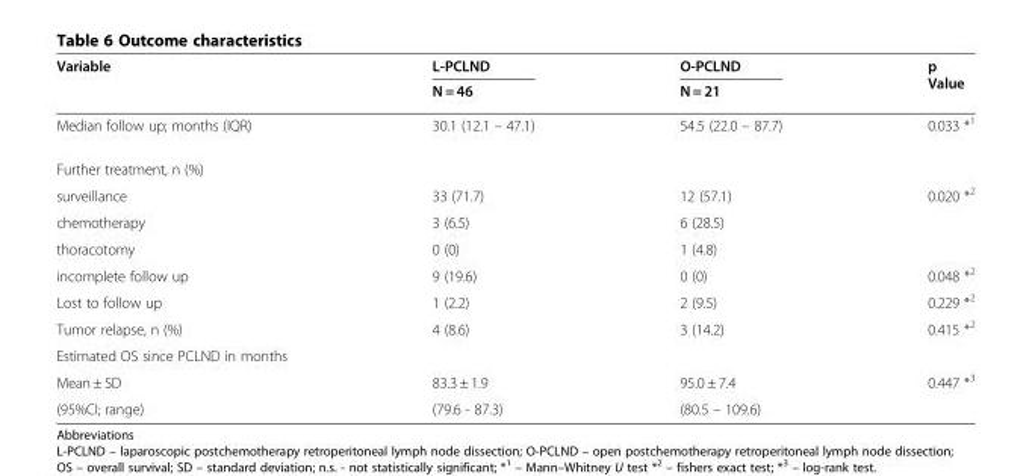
<table><thead><tr><td rowspan="2">Variable</td><td rowspan="2">L-PCLND N = 46</td><td rowspan="2">O-PCLND N = 21</td><td rowspan="2">p Value</td></tr><tr></tr></thead><tbody><tr><td>Median follow up; months (IQR)</td><td>30.1 (12.1 – 47.1)</td><td>54.5 (22.0 – 87.7)</td><td>0.033 *<sup>1</sup></td></tr><tr><td colspan="4">Further treatment, n (%)</td></tr><tr><td>surveillance</td><td>33 (71.7)</td><td>12 (57.1)</td><td>0.020 *<sup>2</sup></td></tr><tr><td>chemotherapy</td><td>3 (6.5)</td><td colspan="2">6 (28.5)</td></tr><tr><td>thoracotomy</td><td>0 (0)</td><td colspan="2">1 (4.8)</td></tr><tr><td>incomplete follow up</td><td>9 (19.6)</td><td>0 (0)</td><td>0.048 *<sup>2</sup></td></tr><tr><td>Lost to follow up</td><td>1 (2.2)</td><td>2 (9.5)</td><td>0.229 *<sup>2</sup></td></tr><tr><td>Tumor relapse, n (%)</td><td>4 (8.6)</td><td>3 (14.2)</td><td>0.415 *<sup>2</sup></td></tr><tr><td colspan="4">Estimated OS since PCLND in months</td></tr><tr><td>Mean ± SD</td><td>83.3 ± 1.9</td><td>95.0 ± 7.4</td><td>0.447 *<sup>3</sup></td></tr><tr><td>(95%CI; range)</td><td>(79.6 - 87.3)</td><td>(80.5 – 109.6)</td><td></td></tr></tbody></table>